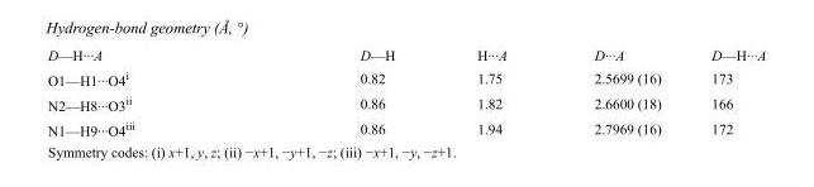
<table><tbody><tr><td>D—H···A</td><td>D—H</td><td>H···A</td><td>D···A</td><td>D—H···A</td></tr><tr><td>O1—H1···O4<sup>i</sup></td><td>0.82</td><td>1.75</td><td>2.5699 (16)</td><td>173</td></tr><tr><td>N2—H8···O3<sup>ii</sup></td><td>0.86</td><td>1.82</td><td>2.6600 (18)</td><td>166</td></tr><tr><td>N1—H9···O4<sup>iii</sup></td><td>0.86</td><td>1.94</td><td>2.7969 (16)</td><td>172</td></tr></tbody></table>